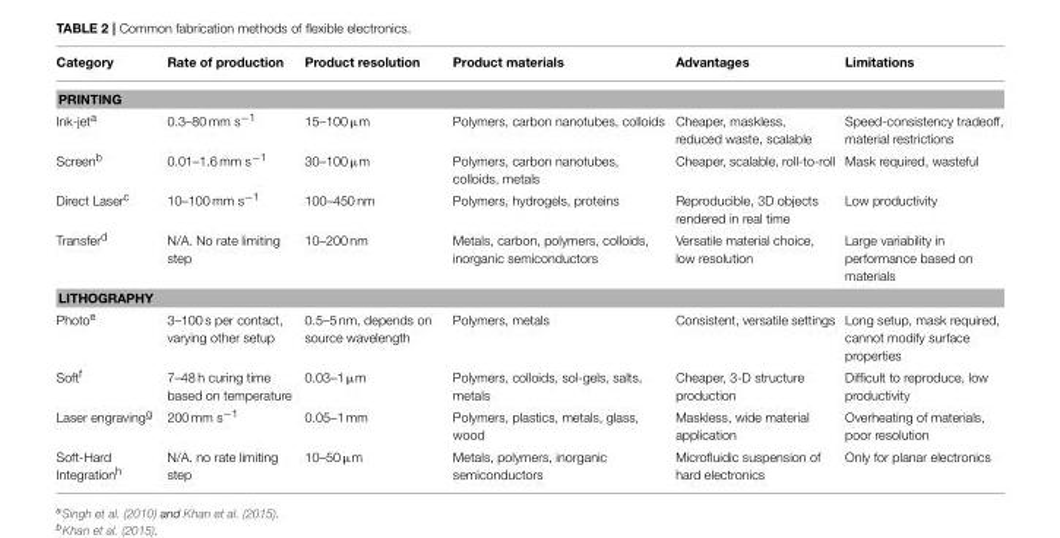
<table><thead><tr><td>Category</td><td>Rate of production</td><td>Product resolution</td><td>Product materials</td><td>Advantages</td><td>Limitations</td></tr></thead><tbody><tr><td colspan="6">PRINTING</td></tr><tr><td>Ink-jet<sup>a</sup></td><td>0.3–80 mm s<sup>−1</sup></td><td>15–100 µm</td><td>Polymers, carbon nanotubes, colloids</td><td>Cheaper, maskless, reduced waste, scalable</td><td>Speed-consistency tradeoff, material restrictions</td></tr><tr><td>Screen<sup>b</sup></td><td>0.01–1.6 mm s<sup>−1</sup></td><td>30–100 µm</td><td>Polymers, carbon nanotubes, colloids, metals</td><td>Cheaper, scalable, roll-to-roll</td><td>Mask required, wasteful</td></tr><tr><td>Direct Laser<sup>c</sup></td><td>10–100 mm s<sup>−1</sup></td><td>100–450 nm</td><td>Polymers, hydrogels, proteins</td><td>Reproducible, 3D objects rendered in real time</td><td>Low productivity</td></tr><tr><td>Transfer<sup>d</sup></td><td>N/A. No rate limiting step</td><td>10–200 nm</td><td>Metals, carbon, polymers, colloids, inorganic semiconductors</td><td>Versatile material choice, low resolution</td><td>Large variability in performance based on materials</td></tr><tr><td colspan="6">LITHOGRAPHY</td></tr><tr><td>Photo<sup>e</sup></td><td>3–100 s per contact, varying other setup</td><td>0.5–5 nm, depends on source wavelength</td><td>Polymers, metals</td><td>Consistent, versatile settings</td><td>Long setup, mask required, cannot modify surface properties</td></tr><tr><td>Soft<sup>f</sup></td><td>7–48 h curing time based on temperature</td><td>0.03–1 µm</td><td>Polymers, colloids, sol-gels, salts, metals</td><td>Cheaper, 3-D structure production</td><td>Difficult to reproduce, low productivity</td></tr><tr><td>Laser engraving<sup>g</sup></td><td>200 mm s<sup>−1</sup></td><td>0.05–1 mm</td><td>Polymers, plastics, metals, glass, wood</td><td>Maskless, wide material application</td><td>Overheating of materials, poor resolution</td></tr><tr><td>Soft-Hard Integration<sup>h</sup></td><td>N/A. no rate limiting step</td><td>10–50 µm</td><td>Metals, polymers, inorganic semiconductors</td><td>Microfluidic suspension of hard electronics</td><td>Only for planar electronics</td></tr></tbody></table>